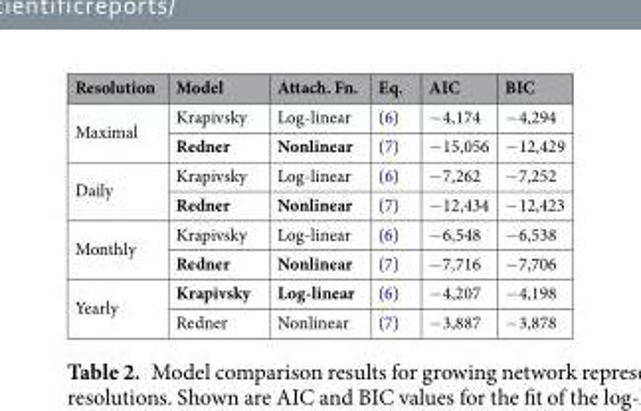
<table><thead><tr><td>Resolution</td><td>Model</td><td>Attach. Fn.</td><td>Eq.</td><td>AIC</td><td>BIC</td></tr></thead><tbody><tr><td rowspan="2">Maximal</td><td>Krapivsky</td><td>Log-linear</td><td>(6)</td><td>−4,174</td><td>−4,294</td></tr><tr><td>Redner</td><td>Nonlinear</td><td>(7)</td><td>−15,056</td><td>−12,429</td></tr><tr><td rowspan="2">Daily</td><td>Krapivsky</td><td>Log-linear</td><td>(6)</td><td>−7,262</td><td>−7,252</td></tr><tr><td>Redner</td><td>Nonlinear</td><td>(7)</td><td>−12,434</td><td>−12,423</td></tr><tr><td rowspan="2">Monthly</td><td>Krapivsky</td><td>Log-linear</td><td>(6)</td><td>−6,548</td><td>−6,538</td></tr><tr><td>Redner</td><td>Nonlinear</td><td>(7)</td><td>−7,716</td><td>−7,706</td></tr><tr><td rowspan="2">Yearly</td><td>Krapivsky</td><td>Log-linear</td><td>(6)</td><td>−4,207</td><td>−4,198</td></tr><tr><td>Redner</td><td>Nonlinear</td><td>(7)</td><td>−3,887</td><td>−3,878</td></tr></tbody></table>